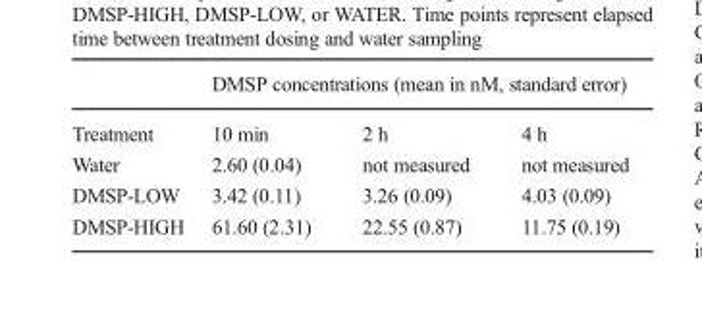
<table><thead><tr><td rowspan="2">Treatment</td><td colspan="3">DMSP concentrations (mean in nM, standard error)</td></tr><tr><td>10 min</td><td>2 h</td><td>4 h</td></tr></thead><tbody><tr><td>Water</td><td>2.60 (0.04)</td><td>not measured</td><td>not measured</td></tr><tr><td>DMSP-LOW</td><td>3.42 (0.11)</td><td>3.26 (0.09)</td><td>4.03 (0.09)</td></tr><tr><td>DMSP-HIGH</td><td>61.60 (2.31)</td><td>22.55 (0.87)</td><td>11.75 (0.19)</td></tr></tbody></table>